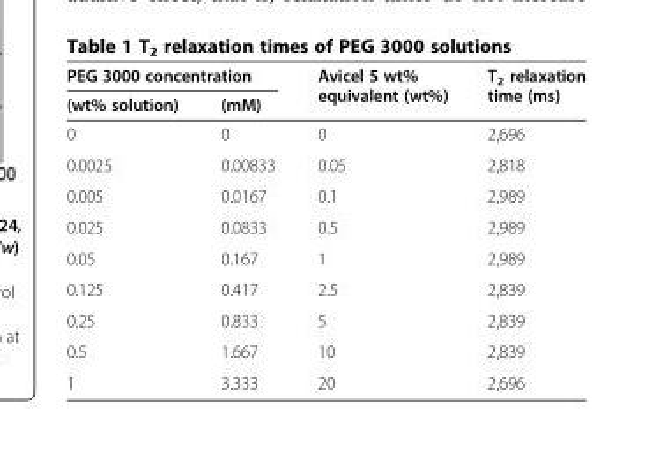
<table><thead><tr><td colspan="2">PEG 3000 concentration</td><td rowspan="2">Avicel 5 wt% equivalent (wt%)</td><td rowspan="2">T<sub>2</sub> relaxation time (ms)</td></tr><tr><td>(wt% solution)</td><td>(mM)</td></tr></thead><tbody><tr><td>0</td><td>0</td><td>0</td><td>2,696</td></tr><tr><td>0.0025</td><td>0.00833</td><td>0.05</td><td>2,818</td></tr><tr><td>0.005</td><td>0.0167</td><td>0.1</td><td>2,989</td></tr><tr><td>0.025</td><td>0.0833</td><td>0.5</td><td>2,989</td></tr><tr><td>0.05</td><td>0.167</td><td>1</td><td>2,989</td></tr><tr><td>0.125</td><td>0.417</td><td>2.5</td><td>2,839</td></tr><tr><td>0.25</td><td>0.833</td><td>5</td><td>2,839</td></tr><tr><td>0.5</td><td>1.667</td><td>10</td><td>2,839</td></tr><tr><td>1</td><td>3.333</td><td>20</td><td>2,696</td></tr></tbody></table>